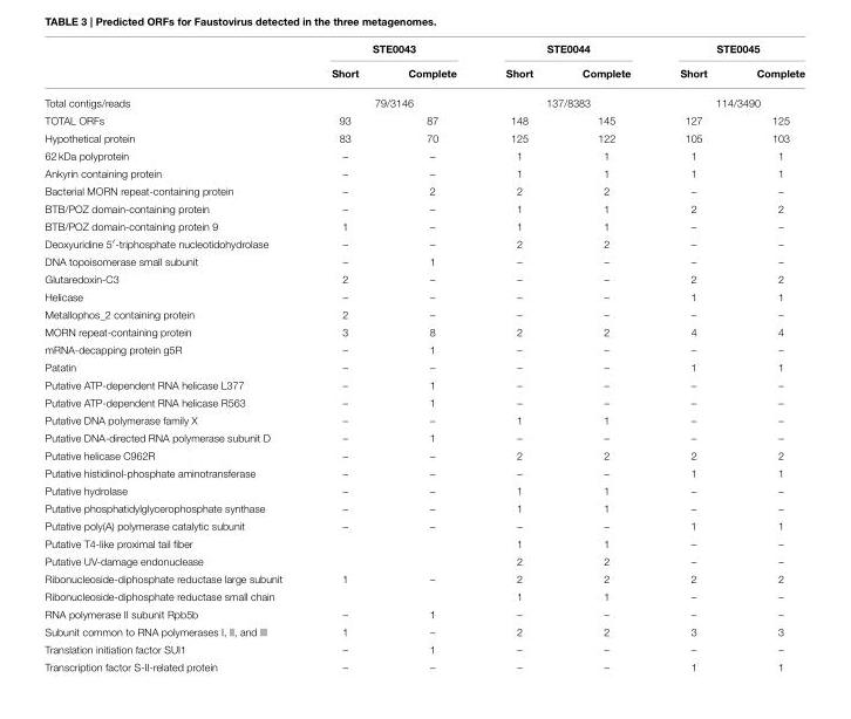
<table><thead><tr><td rowspan="2"></td><td colspan="2">STE0043</td><td colspan="2">STE0044</td><td colspan="2">STE0045</td></tr><tr><td>Short</td><td>Complete</td><td>Short</td><td>Complete</td><td>Short</td><td>Complete</td></tr></thead><tbody><tr><td>Total contigs/reads</td><td colspan="2">79/3146</td><td colspan="2">137/8383</td><td colspan="2">114/3490</td></tr><tr><td>TOTAL ORFs</td><td>93</td><td>87</td><td>148</td><td>145</td><td>127</td><td>125</td></tr><tr><td>Hypothetical protein</td><td>83</td><td>70</td><td>125</td><td>122</td><td>105</td><td>103</td></tr><tr><td>62 kDa polyprotein</td><td>–</td><td>–</td><td>1</td><td>1</td><td>1</td><td>1</td></tr><tr><td>Ankyrin containing protein</td><td>–</td><td>–</td><td>1</td><td>1</td><td>1</td><td>1</td></tr><tr><td>Bacterial MORN repeat-containing protein</td><td>–</td><td>2</td><td>2</td><td>2</td><td>–</td><td>–</td></tr><tr><td>BTB/POZ domain-containing protein</td><td>–</td><td>–</td><td>1</td><td>1</td><td>2</td><td>2</td></tr><tr><td>BTB/POZ domain-containing protein 9</td><td>1</td><td>–</td><td>1</td><td>1</td><td>–</td><td>–</td></tr><tr><td>Deoxyuridine 5′-triphosphate nucleotidohydrolase</td><td>–</td><td>–</td><td>2</td><td>2</td><td>–</td><td>–</td></tr><tr><td>DNA topoisomerase small subunit</td><td>–</td><td>1</td><td>–</td><td>–</td><td>–</td><td>–</td></tr><tr><td>Glutaredoxin-C3</td><td>2</td><td>–</td><td>–</td><td>–</td><td>2</td><td>2</td></tr><tr><td>Helicase</td><td>–</td><td>–</td><td>–</td><td>–</td><td>1</td><td>1</td></tr><tr><td>Metallophos_2 containing protein</td><td>2</td><td>–</td><td>–</td><td>–</td><td>–</td><td>–</td></tr><tr><td>MORN repeat-containing protein</td><td>3</td><td>8</td><td>2</td><td>2</td><td>4</td><td>4</td></tr><tr><td>mRNA-decapping protein g5R</td><td>–</td><td>1</td><td>–</td><td>–</td><td>–</td><td>–</td></tr><tr><td>Patatin</td><td>–</td><td>–</td><td>–</td><td>–</td><td>1</td><td>1</td></tr><tr><td>Putative ATP-dependent RNA helicase L377</td><td>–</td><td>1</td><td>–</td><td>–</td><td>–</td><td>–</td></tr><tr><td>Putative ATP-dependent RNA helicase R563</td><td>–</td><td>1</td><td>–</td><td>–</td><td>–</td><td>–</td></tr><tr><td>Putative DNA polymerase family X</td><td>–</td><td>–</td><td>1</td><td>1</td><td>–</td><td>–</td></tr><tr><td>Putative DNA-directed RNA polymerase subunit D</td><td>–</td><td>1</td><td>–</td><td>–</td><td>–</td><td>–</td></tr><tr><td>Putative helicase C962R</td><td>–</td><td>–</td><td>2</td><td>2</td><td>2</td><td>2</td></tr><tr><td>Putative histidinol-phosphate aminotransferase</td><td>–</td><td>–</td><td>–</td><td>–</td><td>1</td><td>1</td></tr><tr><td>Putative hydrolase</td><td>–</td><td>–</td><td>1</td><td>1</td><td>–</td><td>–</td></tr><tr><td>Putative phosphatidylglycerophosphate synthase</td><td>–</td><td>–</td><td>1</td><td>1</td><td>–</td><td>–</td></tr><tr><td>Putative poly(A) polymerase catalytic subunit</td><td>–</td><td>–</td><td>–</td><td>–</td><td>1</td><td>1</td></tr><tr><td>Putative T4-like proximal tail fiber</td><td></td><td></td><td>1</td><td>1</td><td>–</td><td>–</td></tr><tr><td>Putative UV-damage endonuclease</td><td></td><td></td><td>2</td><td>2</td><td>–</td><td>–</td></tr><tr><td>Ribonucleoside-diphosphate reductase large subunit</td><td>1</td><td>–</td><td>2</td><td>2</td><td>2</td><td>2</td></tr><tr><td>Ribonucleoside-diphosphate reductase small chain</td><td></td><td></td><td>1</td><td>1</td><td>–</td><td>–</td></tr><tr><td>RNA polymerase II subunit Rpb5b</td><td>–</td><td>1</td><td>–</td><td>–</td><td>–</td><td>–</td></tr><tr><td>Subunit common to RNA polymerases I, II, and III</td><td>1</td><td>–</td><td>2</td><td>2</td><td>3</td><td>3</td></tr><tr><td>Translation initiation factor SUI1</td><td>–</td><td>1</td><td>–</td><td>–</td><td>–</td><td>–</td></tr><tr><td>Transcription factor S-II-related protein</td><td>–</td><td>–</td><td>–</td><td>–</td><td>1</td><td>1</td></tr></tbody></table>